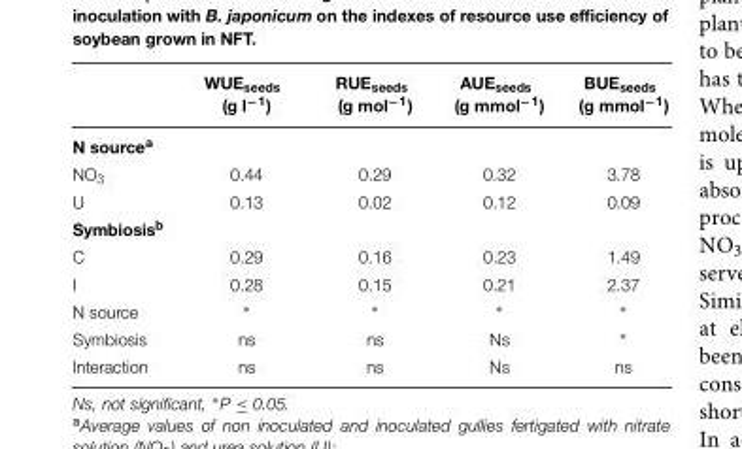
<table><thead><tr><td></td><td>WUE<sub>seeds</sub> (g l<sup>−1</sup>)</td><td>RUE<sub>seeds</sub> (g mol<sup>−1</sup>)</td><td>AUE<sub>seeds</sub> (g mmol<sup>−1</sup>)</td><td>BUE<sub>seeds</sub> (g mmol<sup>−1</sup>)</td></tr></thead><tbody><tr><td colspan="5">N source<sup>a</sup></td></tr><tr><td>NO<sub>3</sub></td><td>0.44</td><td>0.29</td><td>0.32</td><td>3.78</td></tr><tr><td>U</td><td>0.13</td><td>0.02</td><td>0.12</td><td>0.09</td></tr><tr><td colspan="5">Symbiosis<sup>b</sup></td></tr><tr><td>C</td><td>0.29</td><td>0.16</td><td>0.23</td><td>1.49</td></tr><tr><td>I</td><td>0.28</td><td>0.15</td><td>0.21</td><td>2.37</td></tr><tr><td>N source</td><td>∗</td><td>∗</td><td>∗</td><td>∗</td></tr><tr><td>Symbiosis</td><td>ns</td><td>ns</td><td>Ns</td><td>∗</td></tr><tr><td>Interaction</td><td>ns</td><td>ns</td><td>Ns</td><td>ns</td></tr></tbody></table>